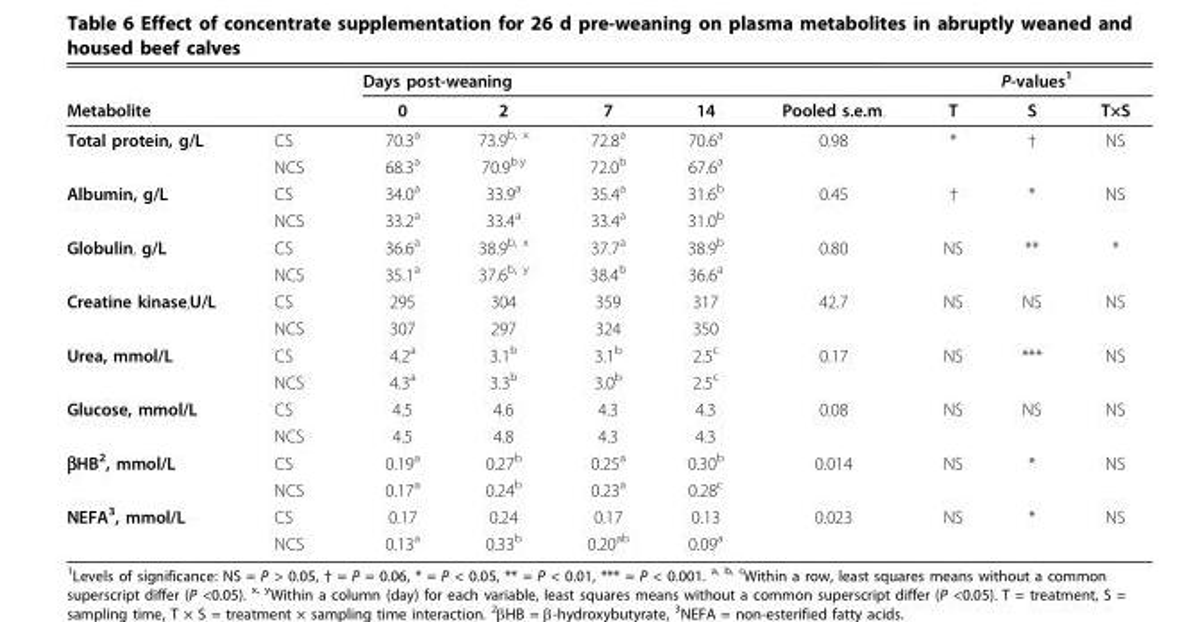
<table><thead><tr><td rowspan="2">Metabolite</td><td rowspan="2"></td><td colspan="4">Days post-weaning</td><td rowspan="2">Pooled s.e.m.</td><td colspan="3">P-values<sup>1</sup></td></tr><tr><td>0</td><td>2</td><td>7</td><td>14</td><td>T</td><td>S</td><td>T×S</td></tr></thead><tbody><tr><td rowspan="2">Total protein, g/L</td><td>CS</td><td>70.3<sup>a</sup></td><td>73.9<sup>b, x</sup></td><td>72.8<sup>a</sup></td><td>70.6<sup>a</sup></td><td>0.98</td><td>*</td><td>†</td><td>NS</td></tr><tr><td>NCS</td><td>68.3<sup>a</sup></td><td>70.9<sup>b.y</sup></td><td>72.0<sup>b</sup></td><td>67.6<sup>a</sup></td><td></td><td></td><td></td><td></td></tr><tr><td rowspan="2">Albumin, g/L</td><td>CS</td><td>34.0<sup>a</sup></td><td>33.9<sup>a</sup></td><td>35.4<sup>a</sup></td><td>31.6<sup>b</sup></td><td>0.45</td><td>†</td><td>*</td><td>NS</td></tr><tr><td>NCS</td><td>33.2<sup>a</sup></td><td>33.4<sup>a</sup></td><td>33.4<sup>a</sup></td><td>31.0<sup>b</sup></td><td></td><td></td><td></td><td></td></tr><tr><td rowspan="2">Globulin, g/L</td><td>CS</td><td>36.6<sup>a</sup></td><td>38.9<sup>b, x</sup></td><td>37.7<sup>a</sup></td><td>38.9<sup>b</sup></td><td>0.80</td><td>NS</td><td>**</td><td>*</td></tr><tr><td>NCS</td><td>35.1<sup>a</sup></td><td>37.6<sup>b, y</sup></td><td>38.4<sup>b</sup></td><td>36.6<sup>a</sup></td><td></td><td></td><td></td><td></td></tr><tr><td rowspan="2">Creatine kinase,U/L</td><td>CS</td><td>295</td><td>304</td><td>359</td><td>317</td><td>42.7</td><td>NS</td><td>NS</td><td>NS</td></tr><tr><td>NCS</td><td>307</td><td>297</td><td>324</td><td>350</td><td></td><td></td><td></td><td></td></tr><tr><td rowspan="2">Urea, mmol/L</td><td>CS</td><td>4.2<sup>a</sup></td><td>3.1<sup>b</sup></td><td>3.1<sup>b</sup></td><td>2.5<sup>c</sup></td><td>0.17</td><td>NS</td><td>***</td><td>NS</td></tr><tr><td>NCS</td><td>4.3<sup>a</sup></td><td>3.3<sup>b</sup></td><td>3.0<sup>b</sup></td><td>2.5<sup>c</sup></td><td></td><td></td><td></td><td></td></tr><tr><td rowspan="2">Glucose, mmol/L</td><td>CS</td><td>4.5</td><td>4.6</td><td>4.3</td><td>4.3</td><td>0.08</td><td>NS</td><td>NS</td><td>NS</td></tr><tr><td>NCS</td><td>4.5</td><td>4.8</td><td>4.3</td><td>4.3</td><td></td><td></td><td></td><td></td></tr><tr><td rowspan="2">βHB<sup>2</sup>, mmol/L</td><td>CS</td><td>0.19<sup>a</sup></td><td>0.27<sup>b</sup></td><td>0.25<sup>a</sup></td><td>0.30<sup>b</sup></td><td>0.014</td><td>NS</td><td>*</td><td>NS</td></tr><tr><td>NCS</td><td>0.17<sup>a</sup></td><td>0.24<sup>b</sup></td><td>0.23<sup>a</sup></td><td>0.28<sup>c</sup></td><td></td><td></td><td></td><td></td></tr><tr><td rowspan="2">NEFA<sup>3</sup>, mmol/L</td><td>CS</td><td>0.17</td><td>0.24</td><td>0.17</td><td>0.13</td><td>0.023</td><td>NS</td><td>*</td><td>NS</td></tr><tr><td>NCS</td><td>0.13<sup>a</sup></td><td>0.33<sup>b</sup></td><td>0.20<sup>ab</sup></td><td>0.09<sup>a</sup></td><td></td><td></td><td></td><td></td></tr></tbody></table>